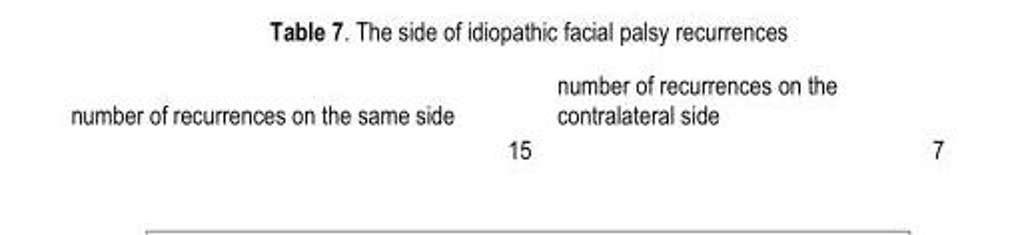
<table><tbody><tr><td>number of recurrences on the same side</td><td>number of recurrences on the contralateral side</td></tr><tr><td>15</td><td>7</td></tr></tbody></table>